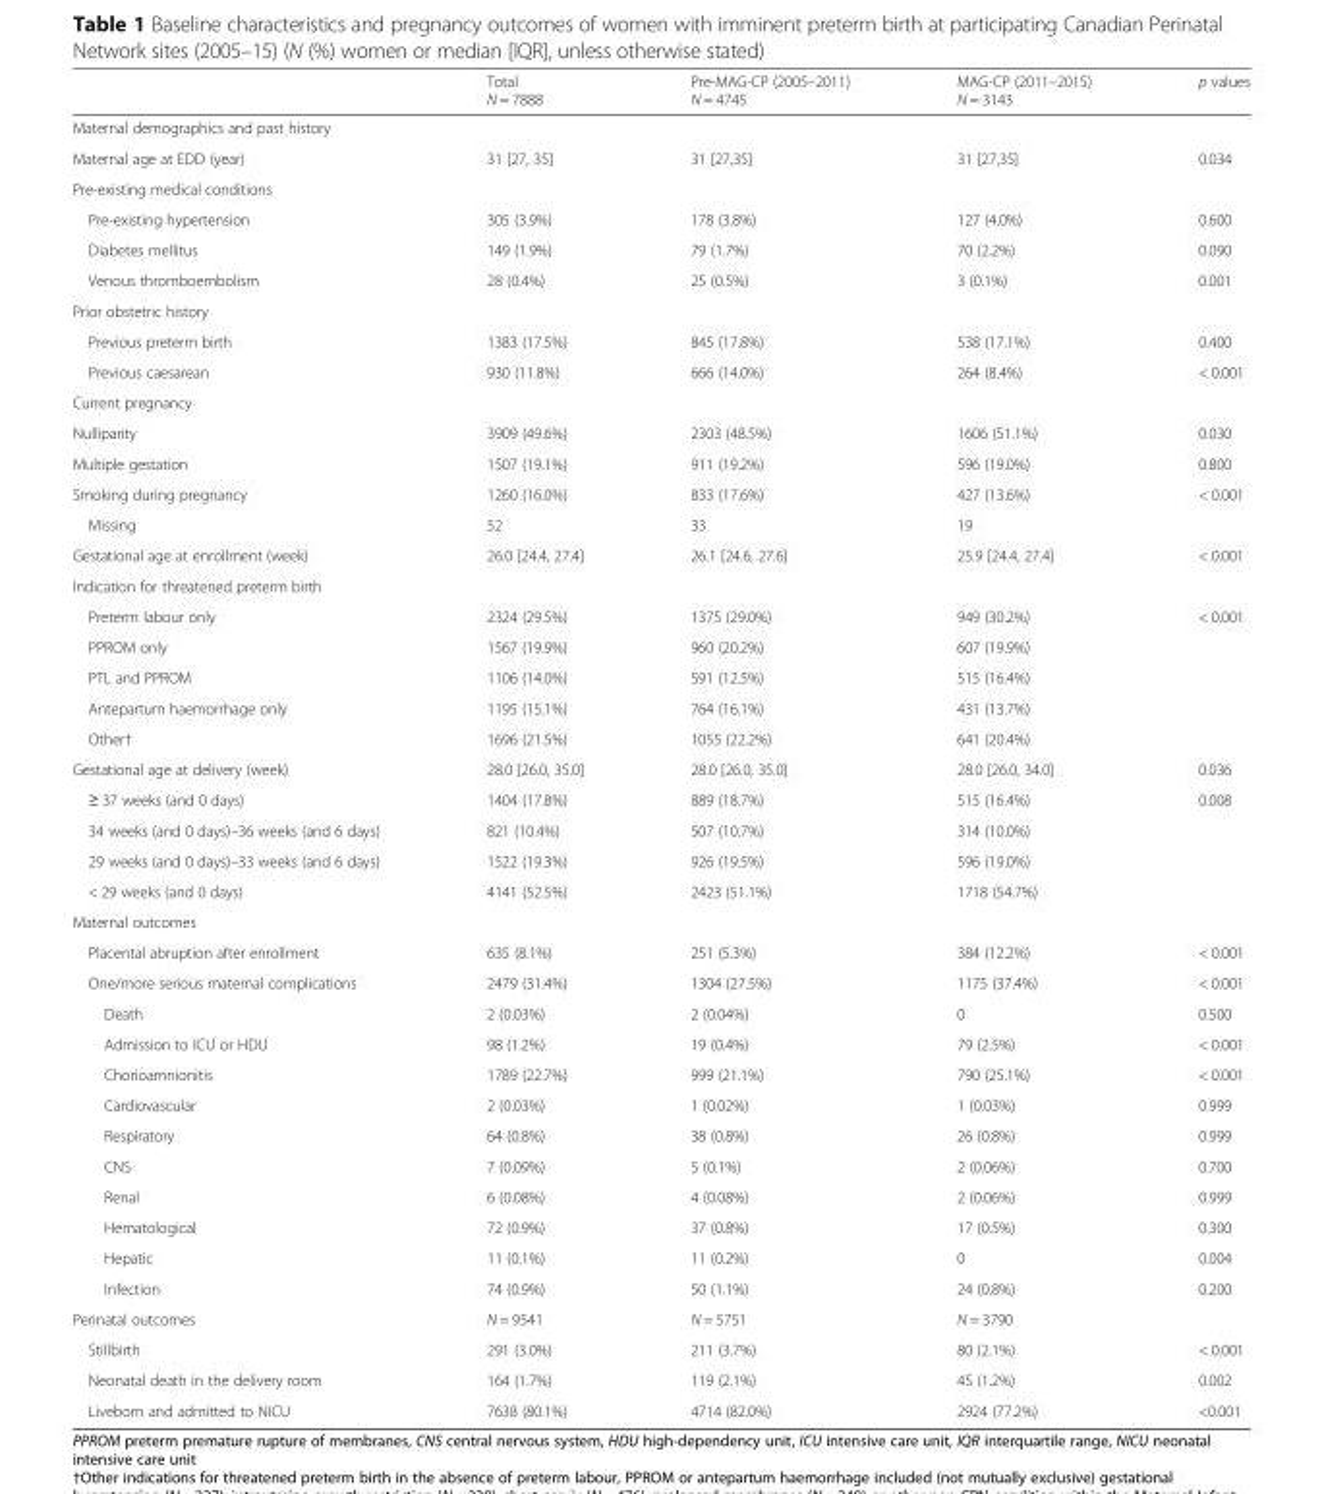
<table><thead><tr><td></td><td>Total N = 7888</td><td>Pre-MAG-CP (2005–2011) N = 4745</td><td>MAG-CP (2011–2015) N = 3143</td><td>p values</td></tr></thead><tbody><tr><td colspan="5">Maternal demographics and past history</td></tr><tr><td>Maternal age at EDD (year)</td><td>31 [27, 35]</td><td>31 [27,35]</td><td>31 [27,35]</td><td>0.034</td></tr><tr><td colspan="5">Pre-existing medical conditions</td></tr><tr><td>Pre-existing hypertension</td><td>305 (3.9%)</td><td>178 (3.8%)</td><td>127 (4.0%)</td><td>0.600</td></tr><tr><td>Diabetes mellitus</td><td>149 (1.9%)</td><td>79 (1.7%)</td><td>70 (2.2%)</td><td>0.090</td></tr><tr><td>Venous thromboembolism</td><td>28 (0.4%)</td><td>25 (0.5%)</td><td>3 (0.1%)</td><td>0.001</td></tr><tr><td colspan="5">Prior obstetric history</td></tr><tr><td>Previous preterm birth</td><td>1383 (17.5%)</td><td>845 (17.8%)</td><td>538 (17.1%)</td><td>0.400</td></tr><tr><td>Previous caesarean</td><td>930 (11.8%)</td><td>666 (14.0%)</td><td>264 (8.4%)</td><td>&lt; 0.001</td></tr><tr><td colspan="5">Current pregnancy</td></tr><tr><td>Nulliparity</td><td>3909 (49.6%)</td><td>2303 (48.5%)</td><td>1606 (51.1%)</td><td>0.030</td></tr><tr><td>Multiple gestation</td><td>1507 (19.1%)</td><td>911 (19.2%)</td><td>596 (19.0%)</td><td>0.800</td></tr><tr><td>Smoking during pregnancy</td><td>1260 (16.0%)</td><td>833 (17.6%)</td><td>427 (13.6%)</td><td>&lt; 0.001</td></tr><tr><td>Missing</td><td>52</td><td>33</td><td>19</td><td></td></tr><tr><td>Gestational age at enrollment (week)</td><td>26.0 [24.4, 27.4]</td><td>26.1 [24.6, 27.6]</td><td>25.9 [24.4, 27.4]</td><td>&lt; 0.001</td></tr><tr><td colspan="5">Indication for threatened preterm birth</td></tr><tr><td>Preterm labour only</td><td>2324 (29.5%)</td><td>1375 (29.0%)</td><td>949 (30.2%)</td><td rowspan="5">&lt; 0.001</td></tr><tr><td>PPROM only</td><td>1567 (19.9%)</td><td>960 (20.2%)</td><td>607 (19.9%)</td></tr><tr><td>PTL and PPROM</td><td>1106 (14.0%)</td><td>591 (12.5%)</td><td>515 (16.4%)</td></tr><tr><td>Antepartum haemorrhage only</td><td>1195 (15.1%)</td><td>764 (16.1%)</td><td>431 (13.7%)</td></tr><tr><td>Other†</td><td>1696 (21.5%)</td><td>1055 (22.2%)</td><td>641 (20.4%)</td></tr><tr><td>Gestational age at delivery (week)</td><td>28.0 [26.0, 35.0]</td><td>28.0 [26.0, 35.0]</td><td>28.0 [26.0, 34.0]</td><td>0.036</td></tr><tr><td>≥ 37 weeks (and 0 days)</td><td>1404 (17.8%)</td><td>889 (18.7%)</td><td>515 (16.4%)</td><td rowspan="4">0.008</td></tr><tr><td>34 weeks (and 0 days)–36 weeks (and 6 days)</td><td>821 (10.4%)</td><td>507 (10.7%)</td><td>314 (10.0%)</td></tr><tr><td>29 weeks (and 0 days)–33 weeks (and 6 days)</td><td>1522 (19.3%)</td><td>926 (19.5%)</td><td>596 (19.0%)</td></tr><tr><td>&lt; 29 weeks (and 0 days)</td><td>4141 (52.5%)</td><td>2423 (51.1%)</td><td>1718 (54.7%)</td></tr><tr><td colspan="5">Maternal outcomes</td></tr><tr><td>Placental abruption after enrollment</td><td>635 (8.1%)</td><td>251 (5.3%)</td><td>384 (12.2%)</td><td>&lt; 0.001</td></tr><tr><td>One/more serious maternal complications</td><td>2479 (31.4%)</td><td>1304 (27.5%)</td><td>1175 (37.4%)</td><td>&lt; 0.001</td></tr><tr><td>Death</td><td>2 (0.03%)</td><td>2 (0.04%)</td><td>0</td><td>0.500</td></tr><tr><td>Admission to ICU or HDU</td><td>98 (1.2%)</td><td>19 (0.4%)</td><td>79 (2.5%)</td><td>&lt; 0.001</td></tr><tr><td>Chorioamnionitis</td><td>1789 (22.7%)</td><td>999 (21.1%)</td><td>790 (25.1%)</td><td>&lt; 0.001</td></tr><tr><td>Cardiovascular</td><td>2 (0.03%)</td><td>1 (0.02%)</td><td>1 (0.03%)</td><td>0.999</td></tr><tr><td>Respiratory</td><td>64 (0.8%)</td><td>38 (0.8%)</td><td>26 (0.8%)</td><td>0.999</td></tr><tr><td>CNS</td><td>7 (0.09%)</td><td>5 (0.1%)</td><td>2 (0.06%)</td><td>0.700</td></tr><tr><td>Renal</td><td>6 (0.08%)</td><td>4 (0.08%)</td><td>2 (0.06%)</td><td>0.999</td></tr><tr><td>Hematological</td><td>72 (0.9%)</td><td>37 (0.8%)</td><td>17 (0.5%)</td><td>0.300</td></tr><tr><td>Hepatic</td><td>11 (0.1%)</td><td>11 (0.2%)</td><td>0</td><td>0.004</td></tr><tr><td>Infection</td><td>74 (0.9%)</td><td>50 (1.1%)</td><td>24 (0.8%)</td><td>0.200</td></tr><tr><td>Perinatal outcomes</td><td>N = 9541</td><td>N = 5751</td><td>N = 3790</td><td></td></tr><tr><td>Stillbirth</td><td>291 (3.0%)</td><td>211 (3.7%)</td><td>80 (2.1%)</td><td>&lt; 0.001</td></tr><tr><td>Neonatal death in the delivery room</td><td>164 (1.7%)</td><td>119 (2.1%)</td><td>45 (1.2%)</td><td>0.002</td></tr><tr><td>Liveborn and admitted to NICU</td><td>7638 (80.1%)</td><td>4714 (82.0%)</td><td>2924 (77.2%)</td><td>&lt;0.001</td></tr></tbody></table>